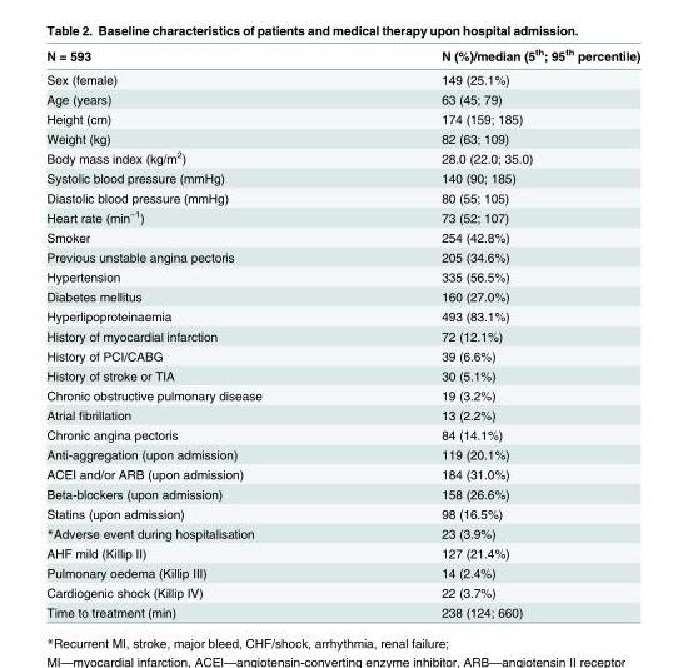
<table><thead><tr><td>N = 593</td><td>N (%)/median (5<sup>th</sup>; 95<sup>th</sup> percentile)</td></tr></thead><tbody><tr><td>Sex (female)</td><td>149 (25.1%)</td></tr><tr><td>Age (years)</td><td>63 (45; 79)</td></tr><tr><td>Height (cm)</td><td>174 (159; 185)</td></tr><tr><td>Weight (kg)</td><td>82 (63; 109)</td></tr><tr><td>Body mass index (kg/m<sup>2</sup>)</td><td>28.0 (22.0; 35.0)</td></tr><tr><td>Systolic blood pressure (mmHg)</td><td>140 (90; 185)</td></tr><tr><td>Diastolic blood pressure (mmHg)</td><td>80 (55; 105)</td></tr><tr><td>Heart rate (min<sup>–1</sup>)</td><td>73 (52; 107)</td></tr><tr><td>Smoker</td><td>254 (42.8%)</td></tr><tr><td>Previous unstable angina pectoris</td><td>205 (34.6%)</td></tr><tr><td>Hypertension</td><td>335 (56.5%)</td></tr><tr><td>Diabetes mellitus</td><td>160 (27.0%)</td></tr><tr><td>Hyperlipoproteinaemia</td><td>493 (83.1%)</td></tr><tr><td>History of myocardial infarction</td><td>72 (12.1%)</td></tr><tr><td>History of PCI/CABG</td><td>39 (6.6%)</td></tr><tr><td>History of stroke or TIA</td><td>30 (5.1%)</td></tr><tr><td>Chronic obstructive pulmonary disease</td><td>19 (3.2%)</td></tr><tr><td>Atrial fibrillation</td><td>13 (2.2%)</td></tr><tr><td>Chronic angina pectoris</td><td>84 (14.1%)</td></tr><tr><td>Anti-aggregation (upon admission)</td><td>119 (20.1%)</td></tr><tr><td>ACEI and/or ARB (upon admission)</td><td>184 (31.0%)</td></tr><tr><td>Beta-blockers (upon admission)</td><td>158 (26.6%)</td></tr><tr><td>Statins (upon admission)</td><td>98 (16.5%)</td></tr><tr><td>*Adverse event during hospitalisation</td><td>23 (3.9%)</td></tr><tr><td>AHF mild (Killip II)</td><td>127 (21.4%)</td></tr><tr><td>Pulmonary oedema (Killip III)</td><td>14 (2.4%)</td></tr><tr><td>Cardiogenic shock (Killip IV)</td><td>22 (3.7%)</td></tr><tr><td>Time to treatment (min)</td><td>238 (124; 660)</td></tr></tbody></table>